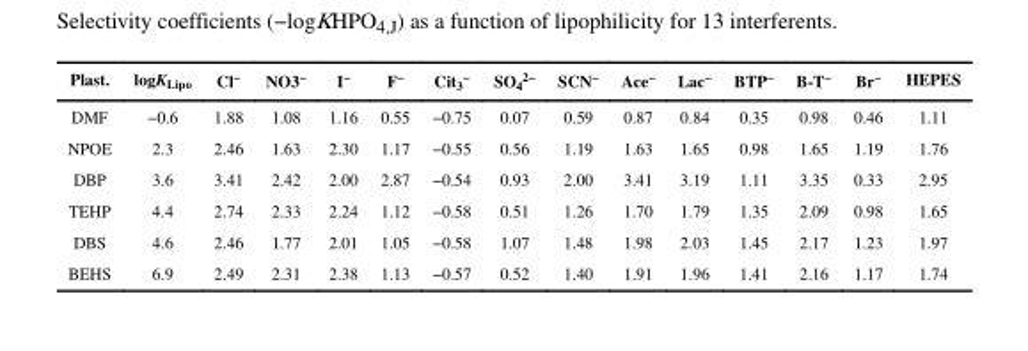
<table><thead><tr><td>Plast.</td><td>logK<sub>Lipo</sub></td><td>Cl<sup>−</sup></td><td>NO3<sup>−</sup></td><td>I<sup>−</sup></td><td>F<sup>−</sup></td><td>Cit<sub>3</sub><sup>−</sup></td><td>SO<sub>4</sub><sup>2−</sup></td><td>SCN<sup>−</sup></td><td>Ace<sup>−</sup></td><td>Lac<sup>−</sup></td><td>BTP<sup>−</sup></td><td>B-T<sup>−</sup></td><td>Br<sup>−</sup></td><td>HEPES</td></tr></thead><tbody><tr><td>DMF</td><td>−0.6</td><td>1.88</td><td>1.08</td><td>1.16</td><td>0.55</td><td>−0.75</td><td>0.07</td><td>0.59</td><td>0.87</td><td>0.84</td><td>0.35</td><td>0.98</td><td>0.46</td><td>1.11</td></tr><tr><td>NPOE</td><td>2.3</td><td>2.46</td><td>1.63</td><td>2.30</td><td>1.17</td><td>−0.55</td><td>0.56</td><td>1.19</td><td>1.63</td><td>1.65</td><td>0.98</td><td>1.65</td><td>1.19</td><td>1.76</td></tr><tr><td>DBP</td><td>3.6</td><td>3.41</td><td>2.42</td><td>2.00</td><td>2.87</td><td>−0.54</td><td>0.93</td><td>2.00</td><td>3.41</td><td>3.19</td><td>1.11</td><td>3.35</td><td>0.33</td><td>2.95</td></tr><tr><td>TEHP</td><td>4.4</td><td>2.74</td><td>2.33</td><td>2.24</td><td>1.12</td><td>−0.58</td><td>0.51</td><td>1.26</td><td>1.70</td><td>1.79</td><td>1.35</td><td>2.09</td><td>0.98</td><td>1.65</td></tr><tr><td>DBS</td><td>4.6</td><td>2.46</td><td>1.77</td><td>2.01</td><td>1.05</td><td>−0.58</td><td>1.07</td><td>1.48</td><td>1.98</td><td>2.03</td><td>1.45</td><td>2.17</td><td>1.23</td><td>1.97</td></tr><tr><td>BEHS</td><td>6.9</td><td>2.49</td><td>2.31</td><td>2.38</td><td>1.13</td><td>−0.57</td><td>0.52</td><td>1.40</td><td>1.91</td><td>1.96</td><td>1.41</td><td>2.16</td><td>1.17</td><td>1.74</td></tr></tbody></table>